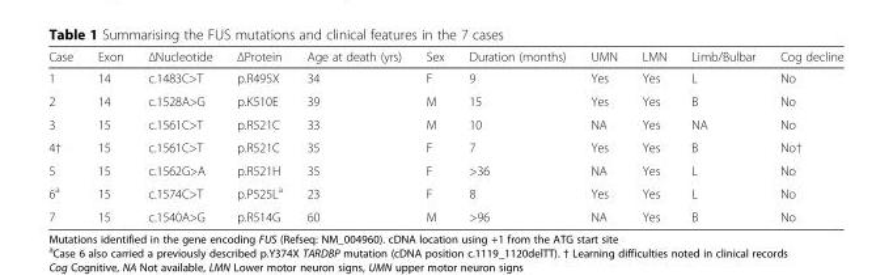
<table><thead><tr><td>Case</td><td>Exon</td><td>ΔNucleotide</td><td>ΔProtein</td><td>Age at death (yrs)</td><td>Sex</td><td>Duration (months)</td><td>UMN</td><td>LMN</td><td>Limb/Bulbar</td><td>Cog decline</td></tr></thead><tbody><tr><td>1</td><td>14</td><td>c.1483C&gt;T</td><td>p.R495X</td><td>34</td><td>F</td><td>9</td><td>Yes</td><td>Yes</td><td>L</td><td>No</td></tr><tr><td>2</td><td>14</td><td>c.1528A&gt;G</td><td>p.K510E</td><td>39</td><td>M</td><td>15</td><td>Yes</td><td>Yes</td><td>B</td><td>No</td></tr><tr><td>3</td><td>15</td><td>c.1561C&gt;T</td><td>p.R521C</td><td>33</td><td>M</td><td>10</td><td>NA</td><td>Yes</td><td>NA</td><td>No</td></tr><tr><td>4†</td><td>15</td><td>c.1561C&gt;T</td><td>p.R521C</td><td>35</td><td>F</td><td>7</td><td>Yes</td><td>Yes</td><td>B</td><td>No†</td></tr><tr><td>5</td><td>15</td><td>c.1562G&gt;A</td><td>p.R521H</td><td>35</td><td>F</td><td>&gt;36</td><td>NA</td><td>Yes</td><td>L</td><td>No</td></tr><tr><td>6<sup>a</sup></td><td>15</td><td>c.1574C&gt;T</td><td>p.P525L<sup>a</sup></td><td>23</td><td>F</td><td>8</td><td>Yes</td><td>Yes</td><td>L</td><td>No</td></tr><tr><td>7</td><td>15</td><td>c.1540A&gt;G</td><td>p.R514G</td><td>60</td><td>M</td><td>&gt;96</td><td>NA</td><td>Yes</td><td>B</td><td>No</td></tr></tbody></table>